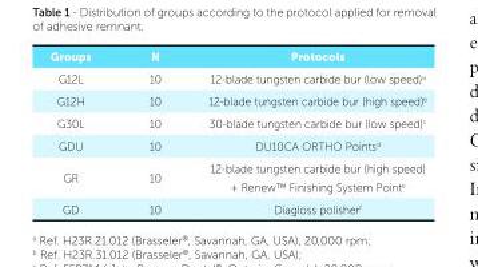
<table><thead><tr><td>Groups</td><td>N</td><td>Protocols</td></tr></thead><tbody><tr><td>G12L</td><td>10</td><td>12-blade tungsten carbide bur (low speed)<sup>a</sup></td></tr><tr><td>G12H</td><td>10</td><td>12-blade tungsten carbide bur (high speed)<sup>b</sup></td></tr><tr><td>G30L</td><td>10</td><td>30-blade tungsten carbide bur (low speed)<sup>c</sup></td></tr><tr><td>GDU</td><td>10</td><td>DU10CA ORTHO Points<sup>d</sup></td></tr><tr><td>GR</td><td>10</td><td>12-blade tungsten carbide bur (high speed) + Renew™ Finishing System Pointe</td></tr><tr><td>GD</td><td>10</td><td>Diagloss polisher<sup>f</sup></td></tr></tbody></table>